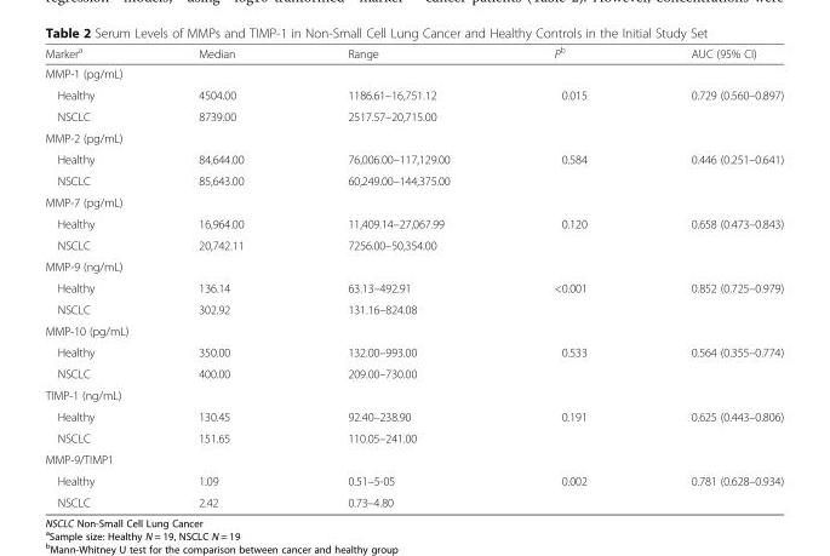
<table><thead><tr><td>Marker<sup>a</sup></td><td>Median</td><td>Range</td><td>P<sup>b</sup></td><td>AUC (95% CI)</td></tr></thead><tbody><tr><td colspan="5">MMP-1 (pg/mL)</td></tr><tr><td>Healthy</td><td>4504.00</td><td>1186.61–16,751.12</td><td>0.015</td><td>0.729 (0.560–0.897)</td></tr><tr><td>NSCLC</td><td>8739.00</td><td>2517.57–20,715.00</td><td></td><td></td></tr><tr><td colspan="5">MMP-2 (pg/mL)</td></tr><tr><td>Healthy</td><td>84,644.00</td><td>76,006.00–117,129.00</td><td>0.584</td><td>0.446 (0.251–0.641)</td></tr><tr><td>NSCLC</td><td>85,643.00</td><td>60,249.00–144,375.00</td><td></td><td></td></tr><tr><td colspan="5">MMP-7 (pg/mL)</td></tr><tr><td>Healthy</td><td>16,964.00</td><td>11,409.14–27,067.99</td><td>0.120</td><td>0.658 (0.473–0.843)</td></tr><tr><td>NSCLC</td><td>20,742.11</td><td>7256.00–50,354.00</td><td></td><td></td></tr><tr><td colspan="5">MMP-9 (ng/mL)</td></tr><tr><td>Healthy</td><td>136.14</td><td>63.13–492.91</td><td>&lt;0.001</td><td>0.852 (0.725–0.979)</td></tr><tr><td>NSCLC</td><td>302.92</td><td>131.16–824.08</td><td></td><td></td></tr><tr><td colspan="5">MMP-10 (pg/mL)</td></tr><tr><td>Healthy</td><td>350.00</td><td>132.00–993.00</td><td>0.533</td><td>0.564 (0.355–0.774)</td></tr><tr><td>NSCLC</td><td>400.00</td><td>209.00–730.00</td><td></td><td></td></tr><tr><td colspan="5">TIMP-1 (ng/mL)</td></tr><tr><td>Healthy</td><td>130.45</td><td>92.40–238.90</td><td>0.191</td><td>0.625 (0.443–0.806)</td></tr><tr><td>NSCLC</td><td>151.65</td><td>110.05–241.00</td><td></td><td></td></tr><tr><td colspan="5">MMP-9/TIMP1</td></tr><tr><td>Healthy</td><td>1.09</td><td>0.51–5-05</td><td>0.002</td><td>0.781 (0.628–0.934)</td></tr><tr><td>NSCLC</td><td>2.42</td><td>0.73–4.80</td><td></td><td></td></tr></tbody></table>